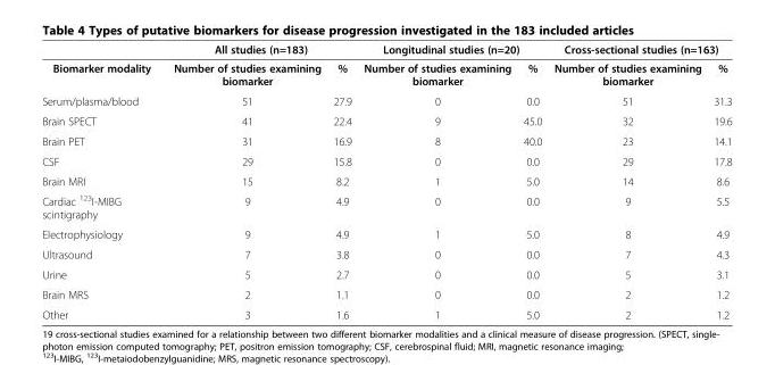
<table><thead><tr><td rowspan="2">Biomarker modality</td><td colspan="2">All studies (n=183)</td><td colspan="2">Longitudinal studies (n=20)</td><td colspan="2">Cross-sectional studies (n=163)</td></tr><tr><td>Number of studies examining biomarker</td><td>%</td><td>Number of studies examining biomarker</td><td>%</td><td>Number of studies examining biomarker</td><td>%</td></tr></thead><tbody><tr><td>Serum/plasma/blood</td><td>51</td><td>27.9</td><td>0</td><td>0.0</td><td>51</td><td>31.3</td></tr><tr><td>Brain SPECT</td><td>41</td><td>22.4</td><td>9</td><td>45.0</td><td>32</td><td>19.6</td></tr><tr><td>Brain PET</td><td>31</td><td>16.9</td><td>8</td><td>40.0</td><td>23</td><td>14.1</td></tr><tr><td>CSF</td><td>29</td><td>15.8</td><td>0</td><td>0.0</td><td>29</td><td>17.8</td></tr><tr><td>Brain MRI</td><td>15</td><td>8.2</td><td>1</td><td>5.0</td><td>14</td><td>8.6</td></tr><tr><td>Cardiac <sup>123</sup>I-MIBG scintigraphy</td><td>9</td><td>4.9</td><td>0</td><td>0.0</td><td>9</td><td>5.5</td></tr><tr><td>Electrophysiology</td><td>9</td><td>4.9</td><td>1</td><td>5.0</td><td>8</td><td>4.9</td></tr><tr><td>Ultrasound</td><td>7</td><td>3.8</td><td>0</td><td>0.0</td><td>7</td><td>4.3</td></tr><tr><td>Urine</td><td>5</td><td>2.7</td><td>0</td><td>0.0</td><td>5</td><td>3.1</td></tr><tr><td>Brain MRS</td><td>2</td><td>1.1</td><td>0</td><td>0.0</td><td>2</td><td>1.2</td></tr><tr><td>Other</td><td>3</td><td>1.6</td><td>1</td><td>5.0</td><td>2</td><td>1.2</td></tr></tbody></table>